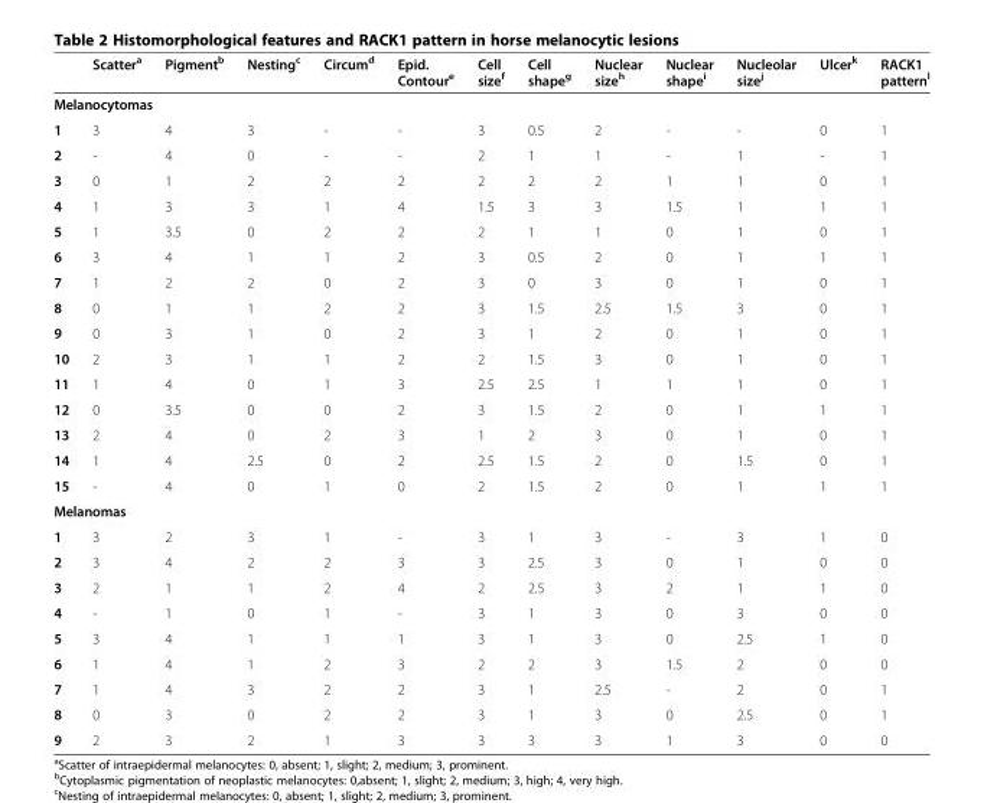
<table><thead><tr><td></td><td>Scatter<sup>a</sup></td><td>Pigment<sup>b</sup></td><td>Nesting<sup>c</sup></td><td>Circum<sup>d</sup></td><td>Epid. Contour<sup>e</sup></td><td>Cell size<sup>f</sup></td><td>Cell shape<sup>g</sup></td><td>Nuclear size<sup>h</sup></td><td>Nuclear shape<sup>i</sup></td><td>Nucleolar size<sup>j</sup></td><td>Ulcer<sup>k</sup></td><td>RACK1 pattern<sup>l</sup></td></tr></thead><tbody><tr><td colspan="13">Melanocytomas</td></tr><tr><td>1</td><td>3</td><td>4</td><td>3</td><td>-</td><td>-</td><td>3</td><td>0.5</td><td>2</td><td>-</td><td>-</td><td>0</td><td>1</td></tr><tr><td>2</td><td>-</td><td>4</td><td>0</td><td>-</td><td>-</td><td>2</td><td>1</td><td>1</td><td>-</td><td>1</td><td>-</td><td>1</td></tr><tr><td>3</td><td>0</td><td>1</td><td>2</td><td>2</td><td>2</td><td>2</td><td>2</td><td>2</td><td>1</td><td>1</td><td>0</td><td>1</td></tr><tr><td>4</td><td>1</td><td>3</td><td>3</td><td>1</td><td>4</td><td>1.5</td><td>3</td><td>3</td><td>1.5</td><td>1</td><td>1</td><td>1</td></tr><tr><td>5</td><td>1</td><td>3.5</td><td>0</td><td>2</td><td>2</td><td>2</td><td>1</td><td>1</td><td>0</td><td>1</td><td>0</td><td>1</td></tr><tr><td>6</td><td>3</td><td>4</td><td>1</td><td>1</td><td>2</td><td>3</td><td>0.5</td><td>2</td><td>0</td><td>1</td><td>1</td><td>1</td></tr><tr><td>7</td><td>1</td><td>2</td><td>2</td><td>0</td><td>2</td><td>3</td><td>0</td><td>3</td><td>0</td><td>1</td><td>0</td><td>1</td></tr><tr><td>8</td><td>0</td><td>1</td><td>1</td><td>2</td><td>2</td><td>3</td><td>1.5</td><td>2.5</td><td>1.5</td><td>3</td><td>0</td><td>1</td></tr><tr><td>9</td><td>0</td><td>3</td><td>1</td><td>0</td><td>2</td><td>3</td><td>1</td><td>2</td><td>0</td><td>1</td><td>0</td><td>1</td></tr><tr><td>10</td><td>2</td><td>3</td><td>1</td><td>1</td><td>2</td><td>2</td><td>1.5</td><td>3</td><td>0</td><td>1</td><td>0</td><td>1</td></tr><tr><td>11</td><td>1</td><td>4</td><td>0</td><td>1</td><td>3</td><td>2.5</td><td>2.5</td><td>1</td><td>1</td><td>1</td><td>0</td><td>1</td></tr><tr><td>12</td><td>0</td><td>3.5</td><td>0</td><td>0</td><td>2</td><td>3</td><td>1.5</td><td>2</td><td>0</td><td>1</td><td>1</td><td>1</td></tr><tr><td>13</td><td>2</td><td>4</td><td>0</td><td>2</td><td>3</td><td>1</td><td>2</td><td>3</td><td>0</td><td>1</td><td>0</td><td>1</td></tr><tr><td>14</td><td>1</td><td>4</td><td>2.5</td><td>0</td><td>2</td><td>2.5</td><td>1.5</td><td>2</td><td>0</td><td>1.5</td><td>0</td><td>1</td></tr><tr><td>15</td><td>-</td><td>4</td><td>0</td><td>1</td><td>0</td><td>2</td><td>1.5</td><td>2</td><td>0</td><td>1</td><td>1</td><td>1</td></tr><tr><td colspan="13">Melanomas</td></tr><tr><td>1</td><td>3</td><td>2</td><td>3</td><td>1</td><td>-</td><td>3</td><td>1</td><td>3</td><td>-</td><td>3</td><td>1</td><td>0</td></tr><tr><td>2</td><td>3</td><td>4</td><td>2</td><td>2</td><td>3</td><td>3</td><td>2.5</td><td>3</td><td>0</td><td>1</td><td>0</td><td>0</td></tr><tr><td>3</td><td>2</td><td>1</td><td>1</td><td>2</td><td>4</td><td>2</td><td>2.5</td><td>3</td><td>2</td><td>1</td><td>1</td><td>0</td></tr><tr><td>4</td><td>-</td><td>1</td><td>0</td><td>1</td><td>-</td><td>3</td><td>1</td><td>3</td><td>0</td><td>3</td><td>0</td><td>0</td></tr><tr><td>5</td><td>3</td><td>4</td><td>1</td><td>1</td><td>1</td><td>3</td><td>1</td><td>3</td><td>0</td><td>2.5</td><td>1</td><td>0</td></tr><tr><td>6</td><td>1</td><td>4</td><td>1</td><td>2</td><td>3</td><td>2</td><td>2</td><td>3</td><td>1.5</td><td>2</td><td>0</td><td>0</td></tr><tr><td>7</td><td>1</td><td>4</td><td>3</td><td>2</td><td>2</td><td>3</td><td>1</td><td>2.5</td><td>-</td><td>2</td><td>0</td><td>1</td></tr><tr><td>8</td><td>0</td><td>3</td><td>0</td><td>2</td><td>2</td><td>3</td><td>1</td><td>3</td><td>0</td><td>2.5</td><td>0</td><td>1</td></tr><tr><td>9</td><td>2</td><td>3</td><td>2</td><td>1</td><td>3</td><td>3</td><td>3</td><td>3</td><td>1</td><td>3</td><td>0</td><td>0</td></tr></tbody></table>